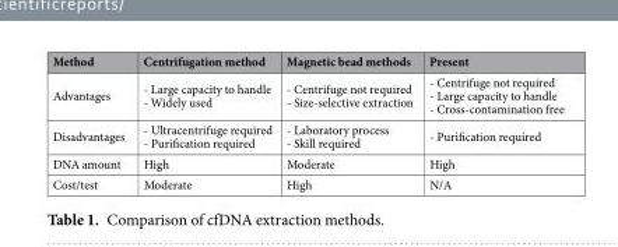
<table><thead><tr><td>Method</td><td>Centrifugation method</td><td>Magnetic bead methods</td><td>Present</td></tr></thead><tbody><tr><td>Advantages</td><td>- Large capacity to handle - Widely used</td><td>- Centrifuge not required - Size-selective extraction</td><td>- Centrifuge not required - Large capacity to handle - Cross-contamination free</td></tr><tr><td>Disadvantages</td><td>- Ultracentrifuge required - Purification required</td><td>- Laboratory process - Skill required</td><td>- Purification required</td></tr><tr><td>DNA amount</td><td>High</td><td>Moderate</td><td>High</td></tr><tr><td>Cost/test</td><td>Moderate</td><td>High</td><td>N/A</td></tr></tbody></table>